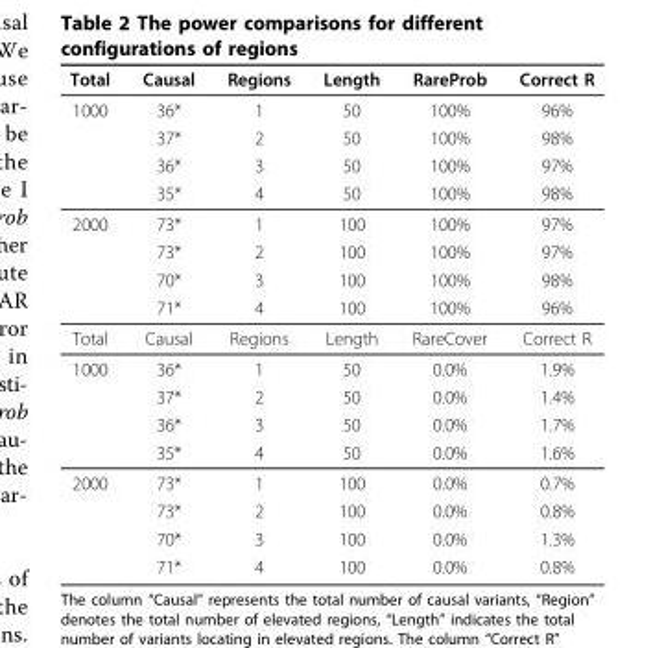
<table><thead><tr><td>Total</td><td>Causal</td><td>Regions</td><td>Length</td><td>RareProb</td><td>Correct R</td></tr></thead><tbody><tr><td rowspan="4">1000</td><td>36*</td><td>1</td><td>50</td><td>100%</td><td>96%</td></tr><tr><td>37*</td><td>2</td><td>50</td><td>100%</td><td>98%</td></tr><tr><td>36*</td><td>3</td><td>50</td><td>100%</td><td>97%</td></tr><tr><td>35*</td><td>4</td><td>50</td><td>100%</td><td>98%</td></tr><tr><td rowspan="4">2000</td><td>73*</td><td>1</td><td>100</td><td>100%</td><td>97%</td></tr><tr><td>73*</td><td>2</td><td>100</td><td>100%</td><td>97%</td></tr><tr><td>70*</td><td>3</td><td>100</td><td>100%</td><td>98%</td></tr><tr><td>71*</td><td>4</td><td>100</td><td>100%</td><td>96%</td></tr><tr><td>Total</td><td>Causal</td><td>Regions</td><td>Length</td><td>RareCover</td><td>Correct R</td></tr><tr><td rowspan="4">1000</td><td>36*</td><td>1</td><td>50</td><td>0.0%</td><td>1.9%</td></tr><tr><td>37*</td><td>2</td><td>50</td><td>0.0%</td><td>1.4%</td></tr><tr><td>36*</td><td>3</td><td>50</td><td>0.0%</td><td>1.7%</td></tr><tr><td>35*</td><td>4</td><td>50</td><td>0.0%</td><td>1.6%</td></tr><tr><td rowspan="4">2000</td><td>73*</td><td>1</td><td>100</td><td>0.0%</td><td>0.7%</td></tr><tr><td>73*</td><td>2</td><td>100</td><td>0.0%</td><td>0.8%</td></tr><tr><td>70*</td><td>3</td><td>100</td><td>0.0%</td><td>1.3%</td></tr><tr><td>71*</td><td>4</td><td>100</td><td>0.0%</td><td>0.8%</td></tr></tbody></table>